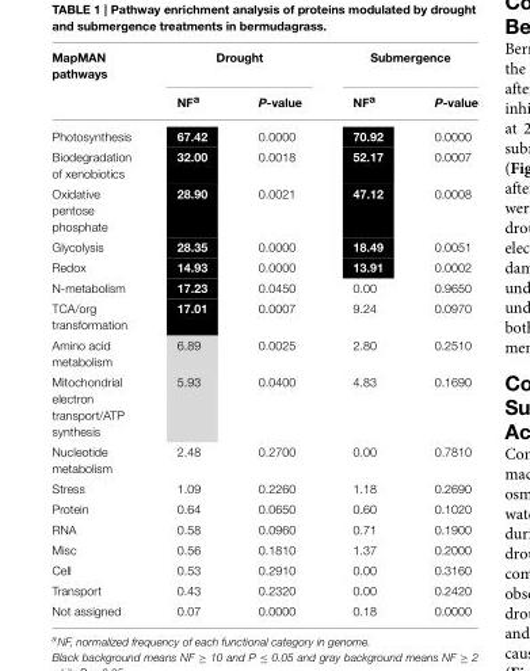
<table><thead><tr><td rowspan="2">MapMAN pathways</td><td colspan="2">Drought</td><td colspan="2">Submergence</td></tr><tr><td>NF<sup>a</sup></td><td>P-value</td><td>NF<sup>a</sup></td><td>P-value</td></tr></thead><tbody><tr><td>Photosynthesis</td><td>67.42</td><td>0.0000</td><td>70.92</td><td>0.0000</td></tr><tr><td>Biodegradation of xenobiotics</td><td>32.00</td><td>0.0018</td><td>52.17</td><td>0.0007</td></tr><tr><td>Oxidative pentose phosphate</td><td>28.90</td><td>0.0021</td><td>47.12</td><td>0.0008</td></tr><tr><td>Glycolysis</td><td>28.35</td><td>0.0000</td><td>18.49</td><td>0.0051</td></tr><tr><td>Redox</td><td>14.93</td><td>0.0000</td><td>13.91</td><td>0.0002</td></tr><tr><td>N-metabolism</td><td>17.23</td><td>0.0450</td><td>0.00</td><td>0.9650</td></tr><tr><td>TCA/org transformation</td><td>17.01</td><td>0.0007</td><td>9.24</td><td>0.0970</td></tr><tr><td>Amino acid metabolism</td><td>6.89</td><td>0.0025</td><td>2.80</td><td>0.2510</td></tr><tr><td>Mitochondrial electron transport/ATP synthesis</td><td>5.93</td><td>0.0400</td><td>4.83</td><td>0.1690</td></tr><tr><td>Nucleotide metabolism</td><td>2.48</td><td>0.2700</td><td>0.00</td><td>0.7810</td></tr><tr><td>Stress</td><td>1.09</td><td>0.2260</td><td>1.18</td><td>0.2690</td></tr><tr><td>Protein</td><td>0.64</td><td>0.0650</td><td>0.60</td><td>0.1020</td></tr><tr><td>RNA</td><td>0.58</td><td>0.0960</td><td>0.71</td><td>0.1900</td></tr><tr><td>Misc</td><td>0.56</td><td>0.1810</td><td>1.37</td><td>0.2000</td></tr><tr><td>Cell</td><td>0.53</td><td>0.2910</td><td>0.00</td><td>0.3160</td></tr><tr><td>Transport</td><td>0.43</td><td>0.2320</td><td>0.00</td><td>0.2420</td></tr><tr><td>Not assigned</td><td>0.07</td><td>0.0000</td><td>0.18</td><td>0.0000</td></tr></tbody></table>